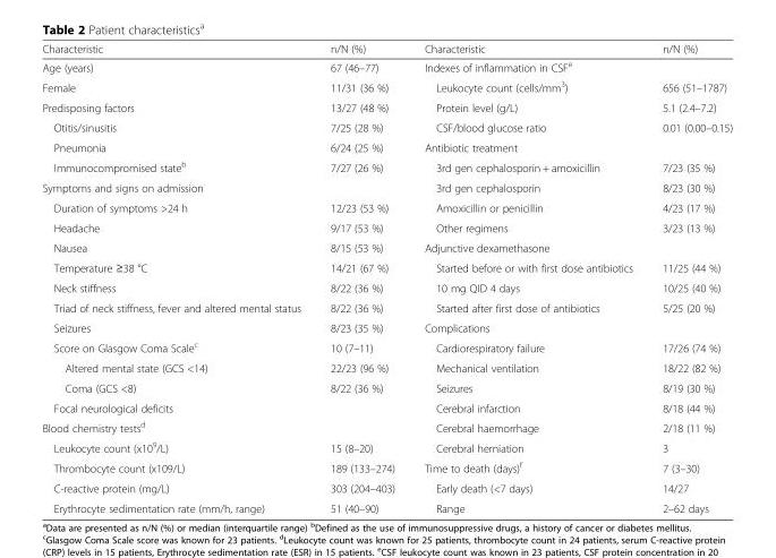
<table><thead><tr><td>Characteristic</td><td>n/N (%)</td><td>Characteristic</td><td>n/N (%)</td></tr></thead><tbody><tr><td>Age (years)</td><td>67 (46–77)</td><td>Indexes of inflammation in CSF<sup>e</sup></td><td></td></tr><tr><td>Female</td><td>11/31 (36 %)</td><td>Leukocyte count (cells/mm<sup>3</sup>)</td><td>656 (51–1787)</td></tr><tr><td>Predisposing factors</td><td>13/27 (48 %)</td><td>Protein level (g/L)</td><td>5.1 (2.4–7.2)</td></tr><tr><td>Otitis/sinusitis</td><td>7/25 (28 %)</td><td>CSF/blood glucose ratio</td><td>0.01 (0.00–0.15)</td></tr><tr><td>Pneumonia</td><td>6/24 (25 %)</td><td>Antibiotic treatment</td><td></td></tr><tr><td>Immunocompromised state<sup>b</sup></td><td>7/27 (26 %)</td><td>3rd gen cephalosporin + amoxicillin</td><td>7/23 (35 %)</td></tr><tr><td>Symptoms and signs on admission</td><td></td><td>3rd gen cephalosporin</td><td>8/23 (30 %)</td></tr><tr><td>Duration of symptoms &gt;24 h</td><td>12/23 (53 %)</td><td>Amoxicillin or penicillin</td><td>4/23 (17 %)</td></tr><tr><td>Headache</td><td>9/17 (53 %)</td><td>Other regimens</td><td>3/23 (13 %)</td></tr><tr><td>Nausea</td><td>8/15 (53 %)</td><td>Adjunctive dexamethasone</td><td></td></tr><tr><td>Temperature ≥38 °C</td><td>14/21 (67 %)</td><td>Started before or with first dose antibiotics</td><td>11/25 (44 %)</td></tr><tr><td>Neck stiffness</td><td>8/22 (36 %)</td><td>10 mg QID 4 days</td><td>10/25 (40 %)</td></tr><tr><td>Triad of neck stiffness, fever and altered mental status</td><td>8/22 (36 %)</td><td>Started after first dose of antibiotics</td><td>5/25 (20 %)</td></tr><tr><td>Seizures</td><td>8/23 (35 %)</td><td>Complications</td><td></td></tr><tr><td>Score on Glasgow Coma Scale<sup>c</sup></td><td>10 (7–11)</td><td>Cardiorespiratory failure</td><td>17/26 (74 %)</td></tr><tr><td>Altered mental state (GCS &lt;14)</td><td>22/23 (96 %)</td><td>Mechanical ventilation</td><td>18/22 (82 %)</td></tr><tr><td>Coma (GCS &lt;8)</td><td>8/22 (36 %)</td><td>Seizures</td><td>8/19 (30 %)</td></tr><tr><td>Focal neurological deficits</td><td></td><td>Cerebral infarction</td><td>8/18 (44 %)</td></tr><tr><td>Blood chemistry tests<sup>d</sup></td><td></td><td>Cerebral haemorrhage</td><td>2/18 (11 %)</td></tr><tr><td>Leukocyte count (x10<sup>9</sup>/L)</td><td>15 (8–20)</td><td>Cerebral herniation</td><td>3</td></tr><tr><td>Thrombocyte count (x109/L)</td><td>189 (133–274)</td><td>Time to death (days)<sup>f</sup></td><td>7 (3–30)</td></tr><tr><td>C-reactive protein (mg/L)</td><td>303 (204–403)</td><td>Early death (&lt;7 days)</td><td>14/27</td></tr><tr><td>Erythrocyte sedimentation rate (mm/h, range)</td><td>51 (40–90)</td><td>Range</td><td>2–62 days</td></tr></tbody></table>